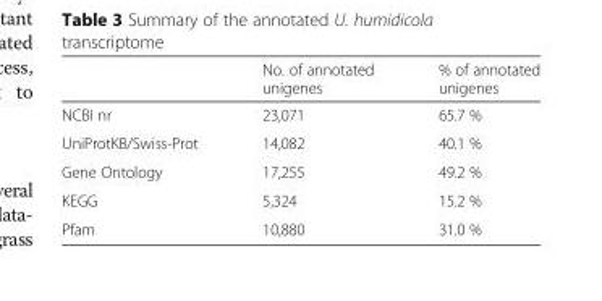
<table><thead><tr><td></td><td>No. of annotated unigenes</td><td>% of annotated unigenes</td></tr></thead><tbody><tr><td>NCBI nr</td><td>23,071</td><td>65.7 %</td></tr><tr><td>UniProtKB/Swiss-Prot</td><td>14,082</td><td>40.1 %</td></tr><tr><td>Gene Ontology</td><td>17,255</td><td>49.2 %</td></tr><tr><td>KEGG</td><td>5,324</td><td>15.2 %</td></tr><tr><td>Pfam</td><td>10,880</td><td>31.0 %</td></tr></tbody></table>